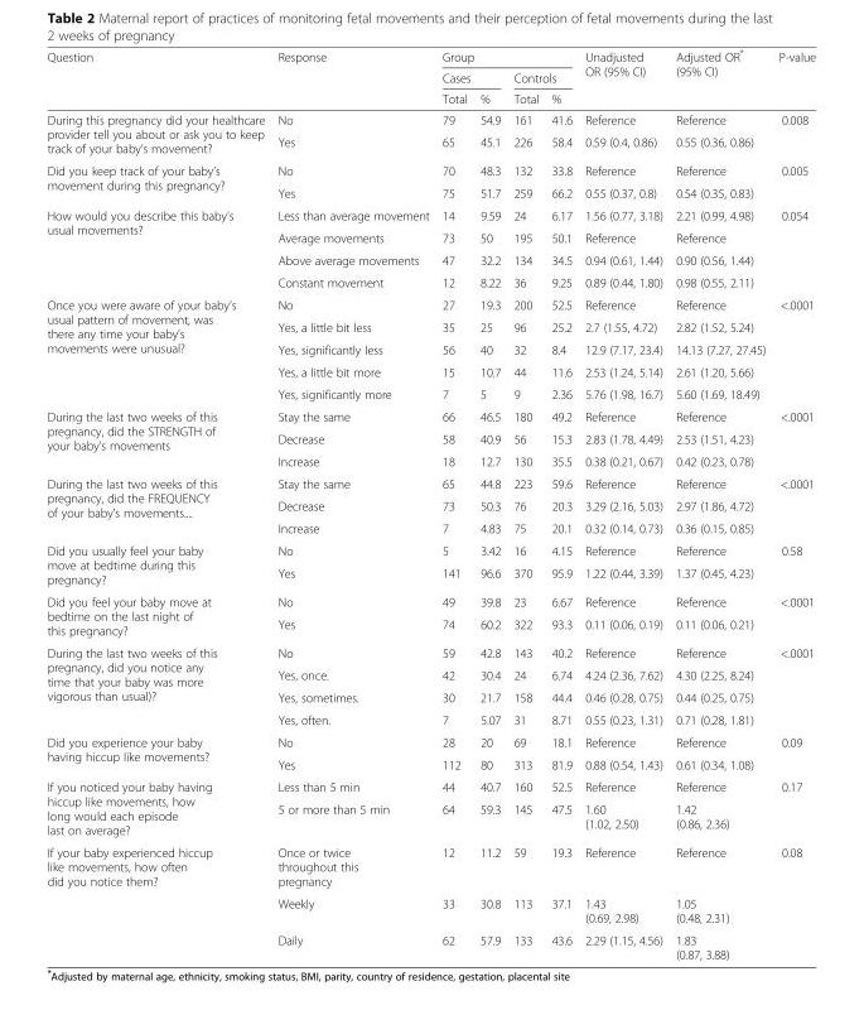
<table><thead><tr><td rowspan="3">Question</td><td rowspan="3">Response</td><td colspan="4">Group</td><td rowspan="3">Unadjusted OR (95% CI)</td><td rowspan="3">Adjusted OR* (95% CI)</td><td rowspan="3">P-value</td></tr><tr><td colspan="2">Cases</td><td colspan="2">Controls</td></tr><tr><td>Total</td><td>%</td><td>Total</td><td>%</td></tr></thead><tbody><tr><td rowspan="2">During this pregnancy did your healthcare provider tell you about or ask you to keep track of your baby’s movement?</td><td>No</td><td>79</td><td>54.9</td><td>161</td><td>41.6</td><td>Reference</td><td>Reference</td><td rowspan="2">0.008</td></tr><tr><td>Yes</td><td>65</td><td>45.1</td><td>226</td><td>58.4</td><td>0.59 (0.4, 0.86)</td><td>0.55 (0.36, 0.86)</td></tr><tr><td rowspan="2">Did you keep track of your baby’s movement during this pregnancy?</td><td>No</td><td>70</td><td>48.3</td><td>132</td><td>33.8</td><td>Reference</td><td>Reference</td><td rowspan="2">0.005</td></tr><tr><td>Yes</td><td>75</td><td>51.7</td><td>259</td><td>66.2</td><td>0.55 (0.37, 0.8)</td><td>0.54 (0.35, 0.83)</td></tr><tr><td rowspan="4">How would you describe this baby’s usual movements?</td><td>Less than average movement</td><td>14</td><td>9.59</td><td>24</td><td>6.17</td><td>1.56 (0.77, 3.18)</td><td>2.21 (0.99, 4.98)</td><td rowspan="4">0.054</td></tr><tr><td>Average movements</td><td>73</td><td>50</td><td>195</td><td>50.1</td><td>Reference</td><td>Reference</td></tr><tr><td>Above average movements</td><td>47</td><td>32.2</td><td>134</td><td>34.5</td><td>0.94 (0.61, 1.44)</td><td>0.90 (0.56, 1.44)</td></tr><tr><td>Constant movement</td><td>12</td><td>8.22</td><td>36</td><td>9.25</td><td>0.89 (0.44, 1.80)</td><td>0.98 (0.55, 2.11)</td></tr><tr><td rowspan="5">Once you were aware of your baby’s usual pattern of movement, was there any time your baby’s movements were unusual?</td><td>No</td><td>27</td><td>19.3</td><td>200</td><td>52.5</td><td>Reference</td><td>Reference</td><td rowspan="5">&lt;.0001</td></tr><tr><td>Yes, a little bit less</td><td>35</td><td>25</td><td>96</td><td>25.2</td><td>2.7 (1.55, 4.72)</td><td>2.82 (1.52, 5.24)</td></tr><tr><td>Yes, significantly less</td><td>56</td><td>40</td><td>32</td><td>8.4</td><td>12.9 (7.17, 23.4)</td><td>14.13 (7.27, 27.45)</td></tr><tr><td>Yes, a little bit more</td><td>15</td><td>10.7</td><td>44</td><td>11.6</td><td>2.53 (1.24, 5.14)</td><td>2.61 (1.20, 5.66)</td></tr><tr><td>Yes, significantly more</td><td>7</td><td>5</td><td>9</td><td>2.36</td><td>5.76 (1.98, 16.7)</td><td>5.60 (1.69, 18.49)</td></tr><tr><td rowspan="3">During the last two weeks of this pregnancy, did the STRENGTH of your baby’s movements</td><td>Stay the same</td><td>66</td><td>46.5</td><td>180</td><td>49.2</td><td>Reference</td><td>Reference</td><td rowspan="3">&lt;.0001</td></tr><tr><td>Decrease</td><td>58</td><td>40.9</td><td>56</td><td>15.3</td><td>2.83 (1.78, 4.49)</td><td>2.53 (1.51, 4.23)</td></tr><tr><td>Increase</td><td>18</td><td>12.7</td><td>130</td><td>35.5</td><td>0.38 (0.21, 0.67)</td><td>0.42 (0.23, 0.78)</td></tr><tr><td rowspan="3">During the last two weeks of this pregnancy, did the FREQUENCY of your baby’s movements....</td><td>Stay the same</td><td>65</td><td>44.8</td><td>223</td><td>59.6</td><td>Reference</td><td>Reference</td><td rowspan="3">&lt;.0001</td></tr><tr><td>Decrease</td><td>73</td><td>50.3</td><td>76</td><td>20.3</td><td>3.29 (2.16, 5.03)</td><td>2.97 (1.86, 4.72)</td></tr><tr><td>Increase</td><td>7</td><td>4.83</td><td>75</td><td>20.1</td><td>0.32 (0.14, 0.73)</td><td>0.36 (0.15, 0.85)</td></tr><tr><td rowspan="2">Did you usually feel your baby move at bedtime during this pregnancy?</td><td>No</td><td>5</td><td>3.42</td><td>16</td><td>4.15</td><td>Reference</td><td>Reference</td><td rowspan="2">0.58</td></tr><tr><td>Yes</td><td>141</td><td>96.6</td><td>370</td><td>95.9</td><td>1.22 (0.44, 3.39)</td><td>1.37 (0.45, 4.23)</td></tr><tr><td rowspan="2">Did you feel your baby move at bedtime on the last night of this pregnancy?</td><td>No</td><td>49</td><td>39.8</td><td>23</td><td>6.67</td><td>Reference</td><td>Reference</td><td rowspan="2">&lt;.0001</td></tr><tr><td>Yes</td><td>74</td><td>60.2</td><td>322</td><td>93.3</td><td>0.11 (0.06, 0.19)</td><td>0.11 (0.06, 0.21)</td></tr><tr><td rowspan="4">During the last two weeks of this pregnancy, did you notice any time that your baby was more vigorous than usual)?</td><td>No</td><td>59</td><td>42.8</td><td>143</td><td>40.2</td><td>Reference</td><td>Reference</td><td rowspan="4">&lt;.0001</td></tr><tr><td>Yes, once.</td><td>42</td><td>30.4</td><td>24</td><td>6.74</td><td>4.24 (2.36, 7.62)</td><td>4.30 (2.25, 8.24)</td></tr><tr><td>Yes, sometimes.</td><td>30</td><td>21.7</td><td>158</td><td>44.4</td><td>0.46 (0.28, 0.75)</td><td>0.44 (0.25, 0.75)</td></tr><tr><td>Yes, often.</td><td>7</td><td>5.07</td><td>31</td><td>8.71</td><td>0.55 (0.23, 1.31)</td><td>0.71 (0.28, 1.81)</td></tr><tr><td rowspan="2">Did you experience your baby having hiccup like movements?</td><td>No</td><td>28</td><td>20</td><td>69</td><td>18.1</td><td>Reference</td><td>Reference</td><td rowspan="2">0.09</td></tr><tr><td>Yes</td><td>112</td><td>80</td><td>313</td><td>81.9</td><td>0.88 (0.54, 1.43)</td><td>0.61 (0.34, 1.08)</td></tr><tr><td rowspan="2">If you noticed your baby having hiccup like movements, how long would each episode last on average?</td><td>Less than 5 min</td><td>44</td><td>40.7</td><td>160</td><td>52.5</td><td>Reference</td><td>Reference</td><td rowspan="2">0.17</td></tr><tr><td>5 or more than 5 min</td><td>64</td><td>59.3</td><td>145</td><td>47.5</td><td>1.60 (1.02, 2.50)</td><td>1.42 (0.86, 2.36)</td></tr><tr><td rowspan="3">If your baby experienced hiccup like movements, how often did you notice them?</td><td>Once or twice throughout this pregnancy</td><td>12</td><td>11.2</td><td>59</td><td>19.3</td><td>Reference</td><td>Reference</td><td rowspan="3">0.08</td></tr><tr><td>Weekly</td><td>33</td><td>30.8</td><td>113</td><td>37.1</td><td>1.43 (0.69, 2.98)</td><td>1.05 (0.48, 2.31)</td></tr><tr><td>Daily</td><td>62</td><td>57.9</td><td>133</td><td>43.6</td><td>2.29 (1.15, 4.56)</td><td>1.83 (0.87, 3.88)</td></tr></tbody></table>